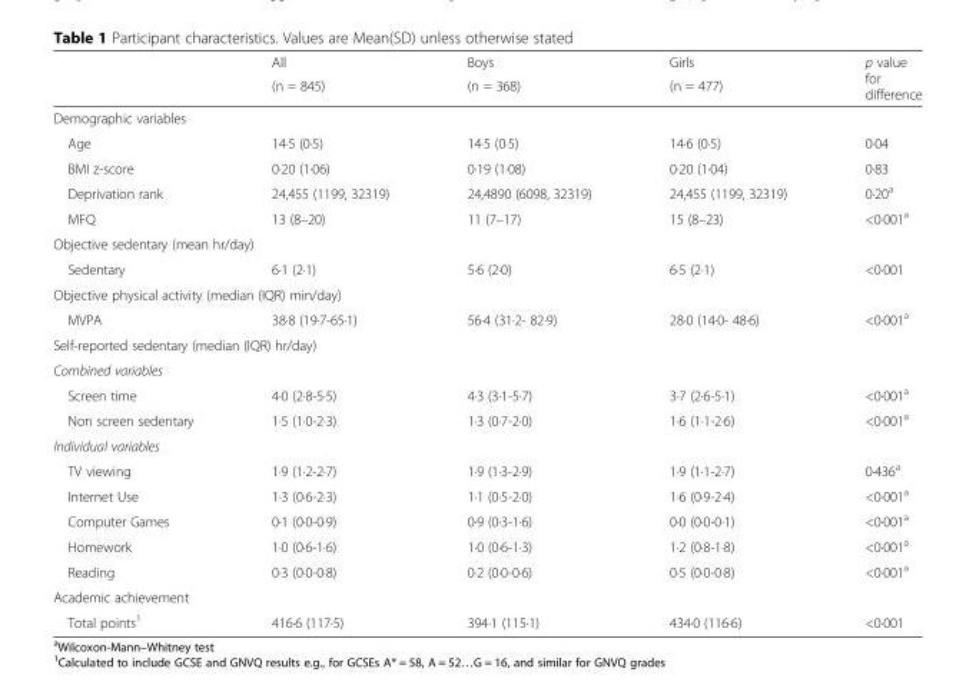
<table><thead><tr><td rowspan="2"></td><td rowspan="2">All (n = 845)</td><td rowspan="2">Boys (n = 368)</td><td rowspan="2">Girls (n = 477)</td><td rowspan="2">p value for difference</td></tr><tr></tr></thead><tbody><tr><td colspan="5">Demographic variables</td></tr><tr><td>Age</td><td>14·5 (0·5)</td><td>14·5 (0·5)</td><td>14·6 (0·5)</td><td>0·04</td></tr><tr><td>BMI z-score</td><td>0·20 (1·06)</td><td>0·19 (1·08)</td><td>0·20 (1·04)</td><td>0·83</td></tr><tr><td>Deprivation rank</td><td>24,455 (1199, 32319)</td><td>24,4890 (6098, 32319)</td><td>24,455 (1199, 32319)</td><td>0·20<sup>a</sup></td></tr><tr><td>MFQ</td><td>13 (8–20)</td><td>11 (7–17)</td><td>15 (8–23)</td><td>&lt;0·001<sup>a</sup></td></tr><tr><td colspan="5">Objective sedentary (mean hr/day)</td></tr><tr><td>Sedentary</td><td>6·1 (2·1)</td><td>5·6 (2·0)</td><td>6·5 (2·1)</td><td>&lt;0·001</td></tr><tr><td colspan="5">Objective physical activity (median (IQR) min/day)</td></tr><tr><td>MVPA</td><td>38·8 (19·7-65·1)</td><td>56·4 (31·2- 82·9)</td><td>28·0 (14·0- 48·6)</td><td>&lt;0·001<sup>a</sup></td></tr><tr><td colspan="5">Self-reported sedentary (median (IQR) hr/day)</td></tr><tr><td colspan="5">Combined variables</td></tr><tr><td>Screen time</td><td>4·0 (2·8-5·5)</td><td>4·3 (3·1-5·7)</td><td>3·7 (2·6-5·1)</td><td>&lt;0·001<sup>a</sup></td></tr><tr><td>Non screen sedentary</td><td>1·5 (1·0-2·3)</td><td>1·3 (0·7-2·0)</td><td>1·6 (1·1-2·6)</td><td>&lt;0·001<sup>a</sup></td></tr><tr><td colspan="5">Individual variables</td></tr><tr><td>TV viewing</td><td>1·9 (1·2-2·7)</td><td>1·9 (1·3-2·9)</td><td>1·9 (1·1-2·7)</td><td>0·436<sup>a</sup></td></tr><tr><td>Internet Use</td><td>1·3 (0·6-2·3)</td><td>1·1 (0·5-2·0)</td><td>1·6 (0·9-2·4)</td><td>&lt;0·001<sup>a</sup></td></tr><tr><td>Computer Games</td><td>0·1 (0·0-0·9)</td><td>0·9 (0·3-1·6)</td><td>0·0 (0·0-0·1)</td><td>&lt;0·001<sup>a</sup></td></tr><tr><td>Homework</td><td>1·0 (0·6-1·6)</td><td>1·0 (0·6-1·3)</td><td>1·2 (0·8-1·8)</td><td>&lt;0·001<sup>a</sup></td></tr><tr><td>Reading</td><td>0·3 (0·0-0·8)</td><td>0·2 (0·0-0·6)</td><td>0·5 (0·0-0·8)</td><td>&lt;0·001<sup>a</sup></td></tr><tr><td colspan="5">Academic achievement</td></tr><tr><td>Total points<sup>1</sup></td><td>416·6 (117·5)</td><td>394·1 (115·1)</td><td>434·0 (116·6)</td><td>&lt;0·001</td></tr></tbody></table>